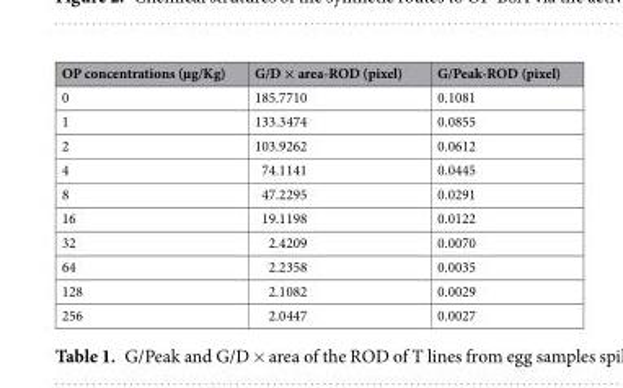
<table><thead><tr><td>OP concentrations (µg/Kg)</td><td>G/D × area-ROD (pixel)</td><td>G/Peak-ROD (pixel)</td></tr></thead><tbody><tr><td>0</td><td>185.7710</td><td>0.1081</td></tr><tr><td>1</td><td>133.3474</td><td>0.0855</td></tr><tr><td>2</td><td>103.9262</td><td>0.0612</td></tr><tr><td>4</td><td>74.1141</td><td>0.0445</td></tr><tr><td>8</td><td>47.2295</td><td>0.0291</td></tr><tr><td>16</td><td>19.1198</td><td>0.0122</td></tr><tr><td>32</td><td>2.4209</td><td>0.0070</td></tr><tr><td>64</td><td>2.2358</td><td>0.0035</td></tr><tr><td>128</td><td>2.1082</td><td>0.0029</td></tr><tr><td>256</td><td>2.0447</td><td>0.0027</td></tr></tbody></table>